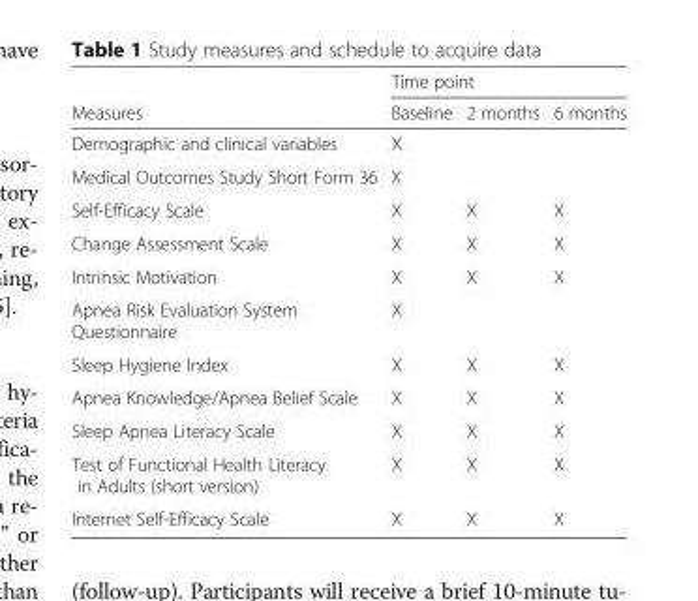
<table><thead><tr><td rowspan="2">Measures</td><td colspan="3">Time point</td></tr><tr><td>Baseline</td><td>2 months</td><td>6 months</td></tr></thead><tbody><tr><td>Demographic and clinical variables</td><td>X</td><td></td><td></td></tr><tr><td>Medical Outcomes Study Short Form 36</td><td>X</td><td></td><td></td></tr><tr><td>Self-Efficacy Scale</td><td>X</td><td>X</td><td>X</td></tr><tr><td>Change Assessment Scale</td><td>X</td><td>X</td><td>X</td></tr><tr><td>Intrinsic Motivation</td><td>X</td><td>X</td><td>X</td></tr><tr><td>Apnea Risk Evaluation System Questionnaire</td><td>X</td><td></td><td></td></tr><tr><td>Sleep Hygiene Index</td><td>X</td><td>X</td><td>X</td></tr><tr><td>Apnea Knowledge/Apnea Belief Scale</td><td>X</td><td>X</td><td>X</td></tr><tr><td>Sleep Apnea Literacy Scale</td><td>X</td><td>X</td><td>X</td></tr><tr><td>Test of Functional Health Literacy in Adults (short version)</td><td>X</td><td>X</td><td>X</td></tr><tr><td>Internet Self-Efficacy Scale</td><td>X</td><td>X</td><td>X</td></tr></tbody></table>